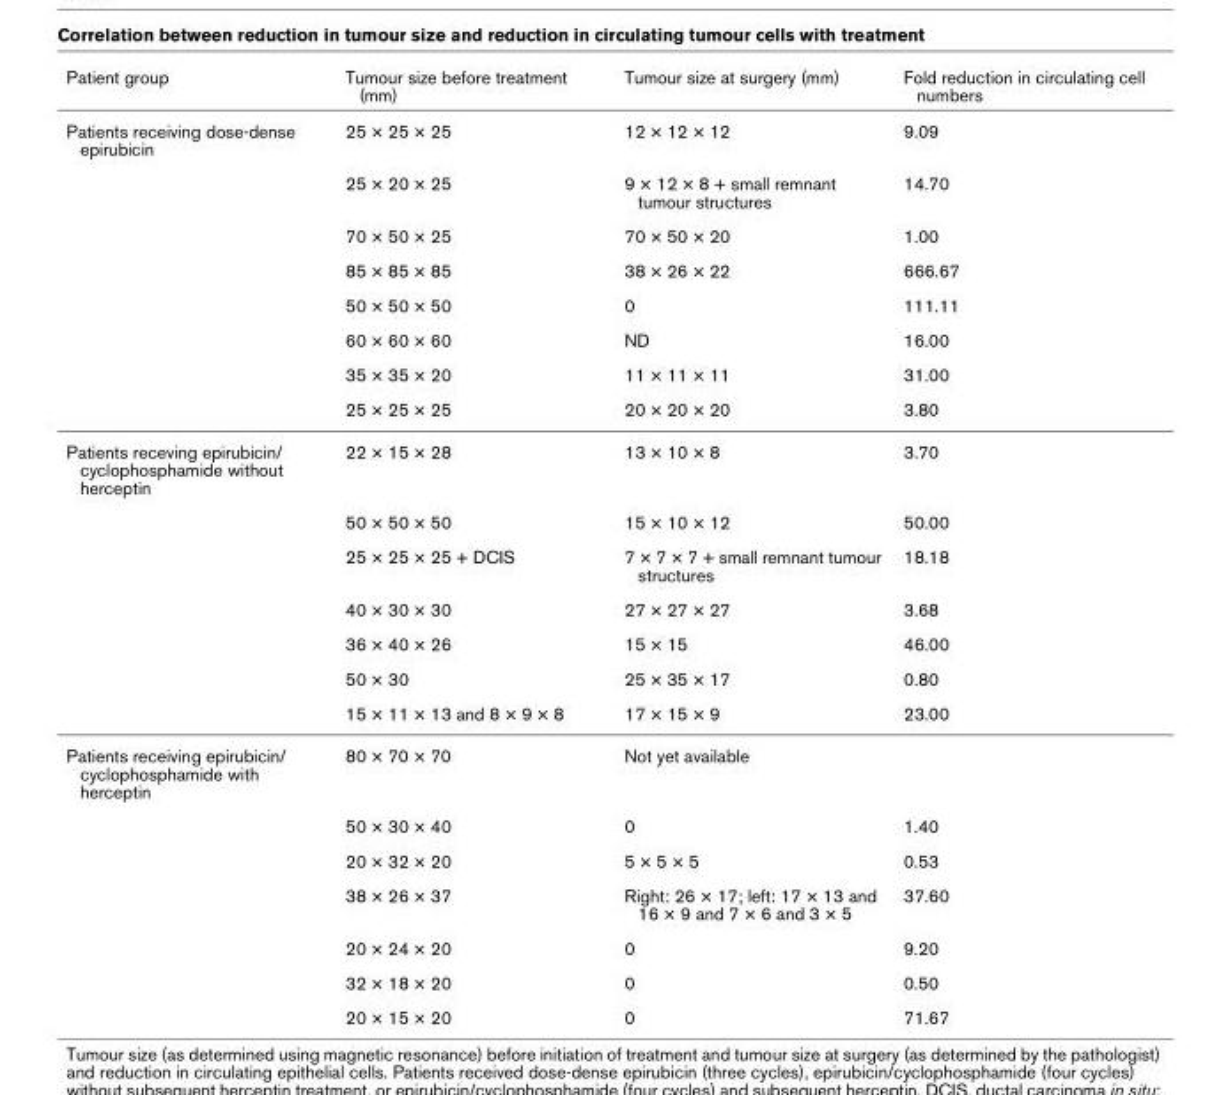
<table><thead><tr><td>Patient group</td><td>Tumour size before treatment (mm)</td><td>Tumour size at surgery (mm)</td><td>Fold reduction in circulating cell numbers</td></tr></thead><tbody><tr><td rowspan="8">Patients receiving dose-dense epirubicin</td><td>25 × 25 × 25</td><td>12 × 12 × 12</td><td>9.09</td></tr><tr><td>25 × 20 × 25</td><td>9 × 12 × 8 + small remnant tumour structures</td><td>14.70</td></tr><tr><td>70 × 50 × 25</td><td>70 × 50 × 20</td><td>1.00</td></tr><tr><td>85 × 85 × 85</td><td>38 × 26 × 22</td><td>666.67</td></tr><tr><td>50 × 50 × 50</td><td>0</td><td>111.11</td></tr><tr><td>60 × 60 × 60</td><td>ND</td><td>16.00</td></tr><tr><td>35 × 35 × 20</td><td>11 × 11 × 11</td><td>31.00</td></tr><tr><td>25 × 25 × 25</td><td>20 × 20 × 20</td><td>3.80</td></tr><tr><td rowspan="7">Patients receving epirubicin/ cyclophosphamide without herceptin</td><td>22 × 15 × 28</td><td>13 × 10 × 8</td><td>3.70</td></tr><tr><td>50 × 50 × 50</td><td>15 × 10 × 12</td><td>50.00</td></tr><tr><td>25 × 25 × 25 + DCIS</td><td>7 × 7 × 7 + small remnant tumour structures</td><td>18.18</td></tr><tr><td>40 × 30 × 30</td><td>27 × 27 × 27</td><td>3.68</td></tr><tr><td>36 × 40 × 26</td><td>15 × 15</td><td>46.00</td></tr><tr><td>50 × 30</td><td>25 × 35 × 17</td><td>0.80</td></tr><tr><td>15 × 11 × 13 and 8 × 9 × 8</td><td>17 × 15 × 9</td><td>23.00</td></tr><tr><td rowspan="7">Patients receiving epirubicin/ cyclophosphamide with herceptin</td><td>80 × 70 × 70</td><td>Not yet available</td><td></td></tr><tr><td>50 × 30 × 40</td><td>0</td><td>1.40</td></tr><tr><td>20 × 32 × 20</td><td>5 × 5 × 5</td><td>0.53</td></tr><tr><td>38 × 26 × 37</td><td>Right: 26 × 17; left: 17 × 13 and 16 × 9 and 7 × 6 and 3 × 5</td><td>37.60</td></tr><tr><td>20 × 24 × 20</td><td>0</td><td>9.20</td></tr><tr><td>32 × 18 × 20</td><td>0</td><td>0.50</td></tr><tr><td>20 × 15 × 20</td><td>0</td><td>71.67</td></tr></tbody></table>